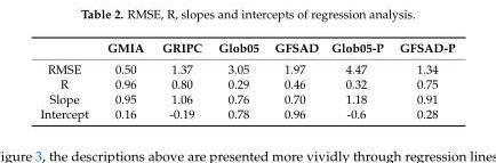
<table><thead><tr><td></td><td>GMIA</td><td>GRIPC</td><td>Glob05</td><td>GFSAD</td><td>Glob05-P</td><td>GFSAD-P</td></tr></thead><tbody><tr><td>RMSE</td><td>0.50</td><td>1.37</td><td>3.05</td><td>1.97</td><td>4.47</td><td>1.34</td></tr><tr><td>R</td><td>0.96</td><td>0.80</td><td>0.29</td><td>0.46</td><td>0.32</td><td>0.75</td></tr><tr><td>Slope</td><td>0.95</td><td>1.06</td><td>0.76</td><td>0.70</td><td>1.18</td><td>0.91</td></tr><tr><td>Intercept</td><td>0.16</td><td>-0.19</td><td>0.78</td><td>0.96</td><td>-0.6</td><td>0.28</td></tr></tbody></table>